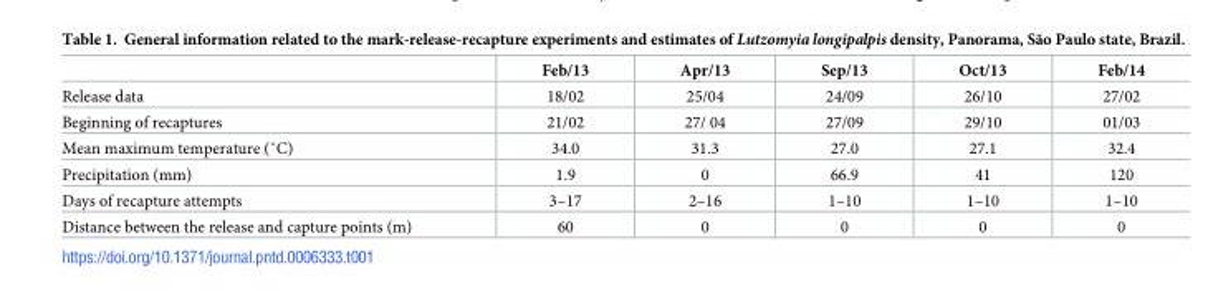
<table><thead><tr><td></td><td>Feb/13</td><td>Apr/13</td><td>Sep/13</td><td>Oct/13</td><td>Feb/14</td></tr></thead><tbody><tr><td>Release data</td><td>18/02</td><td>25/04</td><td>24/09</td><td>26/10</td><td>27/02</td></tr><tr><td>Beginning of recaptures</td><td>21/02</td><td>27/ 04</td><td>27/09</td><td>29/10</td><td>01/03</td></tr><tr><td>Mean maximum temperature (˚C)</td><td>34.0</td><td>31.3</td><td>27.0</td><td>27.1</td><td>32.4</td></tr><tr><td>Precipitation (mm)</td><td>1.9</td><td>0</td><td>66.9</td><td>41</td><td>120</td></tr><tr><td>Days of recapture attempts</td><td>3–17</td><td>2–16</td><td>1–10</td><td>1–10</td><td>1–10</td></tr><tr><td>Distance between the release and capture points (m)</td><td>60</td><td>0</td><td>0</td><td>0</td><td>0</td></tr></tbody></table>